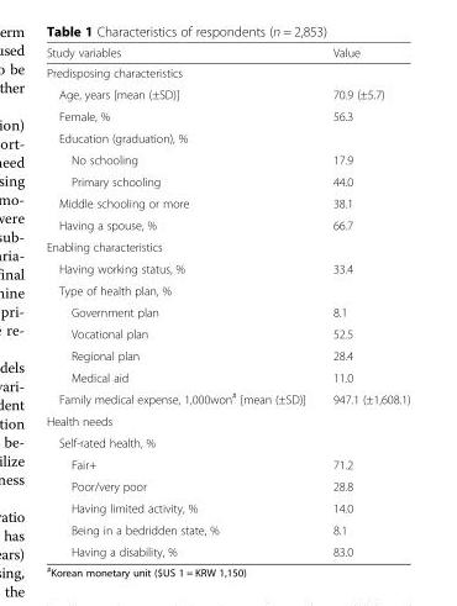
<table><thead><tr><td>Study variables</td><td>Value</td></tr></thead><tbody><tr><td colspan="2">Predisposing characteristics</td></tr><tr><td>Age, years [mean (±SD)]</td><td>70.9 (±5.7)</td></tr><tr><td>Female, %</td><td>56.3</td></tr><tr><td colspan="2">Education (graduation), %</td></tr><tr><td>No schooling</td><td>17.9</td></tr><tr><td>Primary schooling</td><td>44.0</td></tr><tr><td>Middle schooling or more</td><td>38.1</td></tr><tr><td>Having a spouse, %</td><td>66.7</td></tr><tr><td colspan="2">Enabling characteristics</td></tr><tr><td>Having working status, %</td><td>33.4</td></tr><tr><td colspan="2">Type of health plan, %</td></tr><tr><td>Government plan</td><td>8.1</td></tr><tr><td>Vocational plan</td><td>52.5</td></tr><tr><td>Regional plan</td><td>28.4</td></tr><tr><td>Medical aid</td><td>11.0</td></tr><tr><td>Family medical expense, 1,000won<sup>#</sup> [mean (±SD)]</td><td>947.1 (±1,608.1)</td></tr><tr><td colspan="2">Health needs</td></tr><tr><td colspan="2">Self-rated health, %</td></tr><tr><td>Fair+</td><td>71.2</td></tr><tr><td>Poor/very poor</td><td>28.8</td></tr><tr><td>Having limited activity, %</td><td>14.0</td></tr><tr><td>Being in a bedridden state, %</td><td>8.1</td></tr><tr><td>Having a disability, %</td><td>83.0</td></tr></tbody></table>